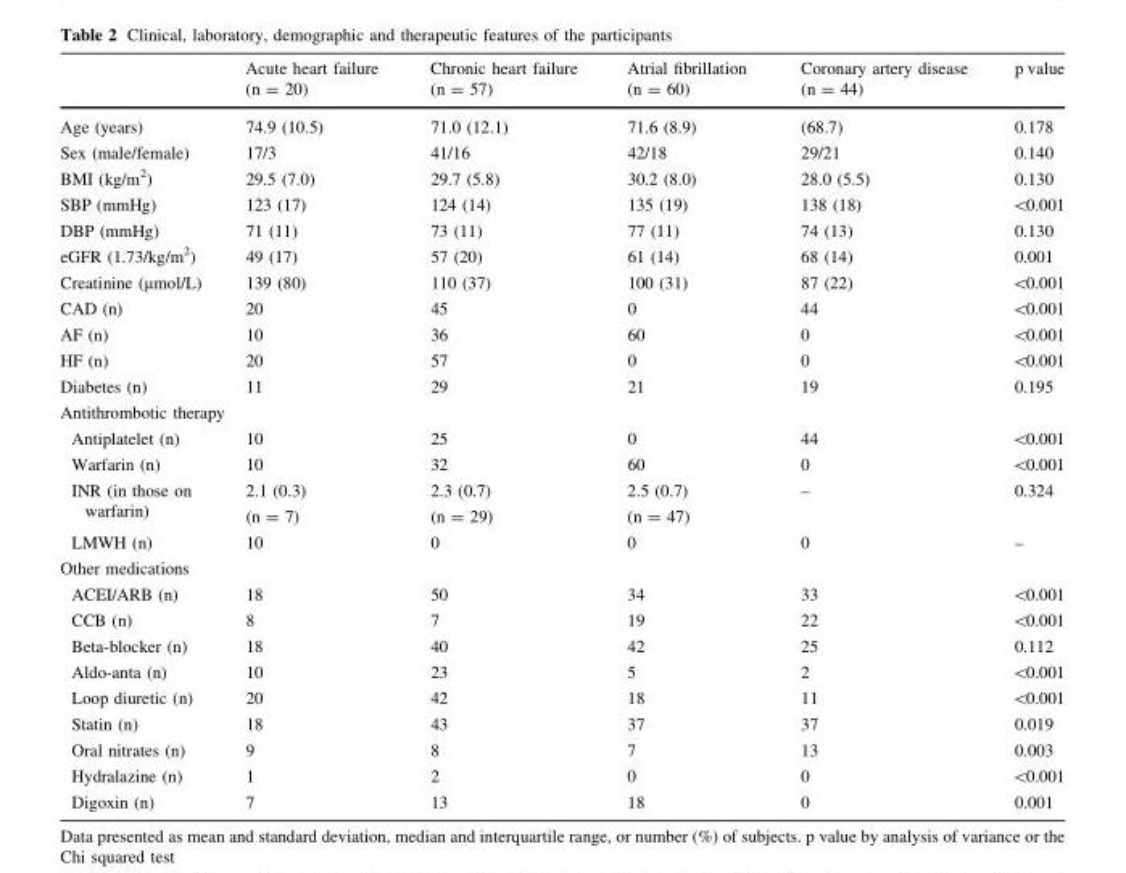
<table><thead><tr><td></td><td>Acute heart failure (n = 20)</td><td>Chronic heart failure (n = 57)</td><td>Atrial fibrillation (n = 60)</td><td>Coronary artery disease (n = 44)</td><td>p value</td></tr></thead><tbody><tr><td>Age (years)</td><td>74.9 (10.5)</td><td>71.0 (12.1)</td><td>71.6 (8.9)</td><td>(68.7)</td><td>0.178</td></tr><tr><td>Sex (male/female)</td><td>17/3</td><td>41/16</td><td>42/18</td><td>29/21</td><td>0.140</td></tr><tr><td>BMI (kg/m<sup>2</sup>)</td><td>29.5 (7.0)</td><td>29.7 (5.8)</td><td>30.2 (8.0)</td><td>28.0 (5.5)</td><td>0.130</td></tr><tr><td>SBP (mmHg)</td><td>123 (17)</td><td>124 (14)</td><td>135 (19)</td><td>138 (18)</td><td>&lt;0.001</td></tr><tr><td>DBP (mmHg)</td><td>71 (11)</td><td>73 (11)</td><td>77 (11)</td><td>74 (13)</td><td>0.130</td></tr><tr><td>eGFR (1.73/kg/m<sup>2</sup>)</td><td>49 (17)</td><td>57 (20)</td><td>61 (14)</td><td>68 (14)</td><td>0.001</td></tr><tr><td>Creatinine (μmol/L)</td><td>139 (80)</td><td>110 (37)</td><td>100 (31)</td><td>87 (22)</td><td>&lt;0.001</td></tr><tr><td>CAD (n)</td><td>20</td><td>45</td><td>0</td><td>44</td><td>&lt;0.001</td></tr><tr><td>AF (n)</td><td>10</td><td>36</td><td>60</td><td>0</td><td>&lt;0.001</td></tr><tr><td>HF (n)</td><td>20</td><td>57</td><td>0</td><td>0</td><td>&lt;0.001</td></tr><tr><td>Diabetes (n)</td><td>11</td><td>29</td><td>21</td><td>19</td><td>0.195</td></tr><tr><td colspan="6">Antithrombotic therapy</td></tr><tr><td>Antiplatelet (n)</td><td>10</td><td>25</td><td>0</td><td>44</td><td>&lt;0.001</td></tr><tr><td>Warfarin (n)</td><td>10</td><td>32</td><td>60</td><td>0</td><td>&lt;0.001</td></tr><tr><td>INR (in those on warfarin)</td><td>2.1 (0.3) (n = 7)</td><td>2.3 (0.7) (n = 29)</td><td>2.5 (0.7) (n = 47)</td><td>–</td><td>0.324</td></tr><tr><td>LMWH (n)</td><td>10</td><td>0</td><td>0</td><td>0</td><td>–</td></tr><tr><td colspan="6">Other medications</td></tr><tr><td>ACEI/ARB (n)</td><td>18</td><td>50</td><td>34</td><td>33</td><td>&lt;0.001</td></tr><tr><td>CCB (n)</td><td>8</td><td>7</td><td>19</td><td>22</td><td>&lt;0.001</td></tr><tr><td>Beta-blocker (n)</td><td>18</td><td>40</td><td>42</td><td>25</td><td>0.112</td></tr><tr><td>Aldo-anta (n)</td><td>10</td><td>23</td><td>5</td><td>2</td><td>&lt;0.001</td></tr><tr><td>Loop diuretic (n)</td><td>20</td><td>42</td><td>18</td><td>11</td><td>&lt;0.001</td></tr><tr><td>Statin (n)</td><td>18</td><td>43</td><td>37</td><td>37</td><td>0.019</td></tr><tr><td>Oral nitrates (n)</td><td>9</td><td>8</td><td>7</td><td>13</td><td>0.003</td></tr><tr><td>Hydralazine (n)</td><td>1</td><td>2</td><td>0</td><td>0</td><td>&lt;0.001</td></tr><tr><td>Digoxin (n)</td><td>7</td><td>13</td><td>18</td><td>0</td><td>0.001</td></tr></tbody></table>